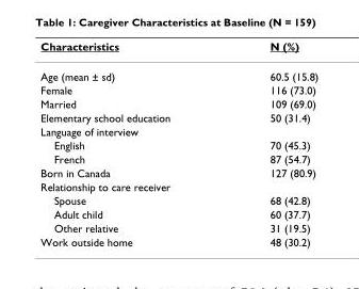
<table><thead><tr><td>Characteristics</td><td>N (%)</td></tr></thead><tbody><tr><td>Age (mean ± sd)</td><td>60.5 (15.8)</td></tr><tr><td>Female</td><td>116 (73.0)</td></tr><tr><td>Married</td><td>109 (69.0)</td></tr><tr><td>Elementary school education</td><td>50 (31.4)</td></tr><tr><td colspan="2">Language of interview</td></tr><tr><td>English</td><td>70 (45.3)</td></tr><tr><td>French</td><td>87 (54.7)</td></tr><tr><td>Born in Canada</td><td>127 (80.9)</td></tr><tr><td colspan="2">Relationship to care receiver</td></tr><tr><td>Spouse</td><td>68 (42.8)</td></tr><tr><td>Adult child</td><td>60 (37.7)</td></tr><tr><td>Other relative</td><td>31 (19.5)</td></tr><tr><td>Work outside home</td><td>48 (30.2)</td></tr></tbody></table>